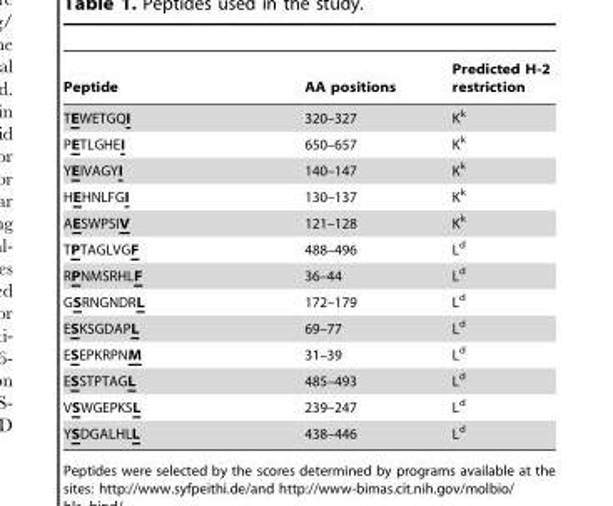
<table><thead><tr><td>Peptide</td><td>AA positions</td><td>Predicted H-2 restriction</td></tr></thead><tbody><tr><td>TEWETGQI</td><td>320–327</td><td>K<sup>k</sup></td></tr><tr><td>PETLGHEI</td><td>650–657</td><td>K<sup>k</sup></td></tr><tr><td>YEIVAGYI</td><td>140–147</td><td>K<sup>k</sup></td></tr><tr><td>HEHNLFGI</td><td>130–137</td><td>K<sup>k</sup></td></tr><tr><td>AESWPSIV</td><td>121–128</td><td>K<sup>k</sup></td></tr><tr><td>TPTAGLVGF</td><td>488–496</td><td>L<sup>d</sup></td></tr><tr><td>RPNMSRHLF</td><td>36–44</td><td>L<sup>d</sup></td></tr><tr><td>GSRNGNDRL</td><td>172–179</td><td>L<sup>d</sup></td></tr><tr><td>ESKSGDAPL</td><td>69–77</td><td>L<sup>d</sup></td></tr><tr><td>ESEPKRPNM</td><td>31–39</td><td>L<sup>d</sup></td></tr><tr><td>ESSTPTAGL</td><td>485–493</td><td>L<sup>d</sup></td></tr><tr><td>VSWGEPKSL</td><td>239–247</td><td>L<sup>d</sup></td></tr><tr><td>YSDGALHLL</td><td>438–446</td><td>L<sup>d</sup></td></tr></tbody></table>